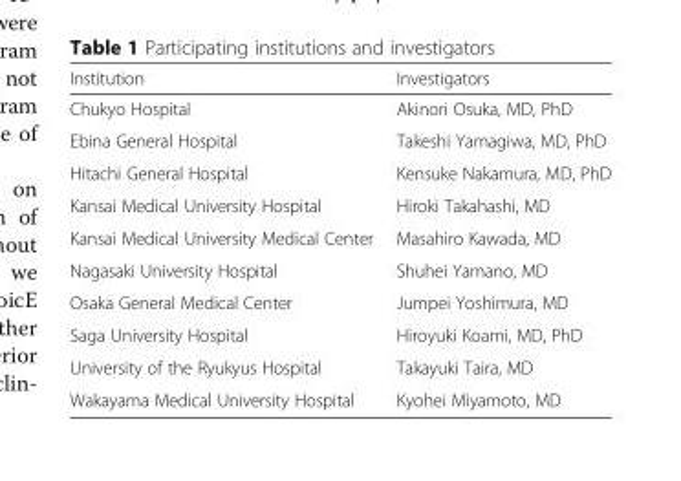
<table><thead><tr><td>Institution</td><td>Investigators</td></tr></thead><tbody><tr><td>Chukyo Hospital</td><td>Akinori Osuka, MD, PhD</td></tr><tr><td>Ebina General Hospital</td><td>Takeshi Yamagiwa, MD, PhD</td></tr><tr><td>Hitachi General Hospital</td><td>Kensuke Nakamura, MD, PhD</td></tr><tr><td>Kansai Medical University Hospital</td><td>Hiroki Takahashi, MD</td></tr><tr><td>Kansai Medical University Medical Center</td><td>Masahiro Kawada, MD</td></tr><tr><td>Nagasaki University Hospital</td><td>Shuhei Yamano, MD</td></tr><tr><td>Osaka General Medical Center</td><td>Jumpei Yoshimura, MD</td></tr><tr><td>Saga University Hospital</td><td>Hiroyuki Koami, MD, PhD</td></tr><tr><td>University of the Ryukyus Hospital</td><td>Takayuki Taira, MD</td></tr><tr><td>Wakayama Medical University Hospital</td><td>Kyohei Miyamoto, MD</td></tr></tbody></table>